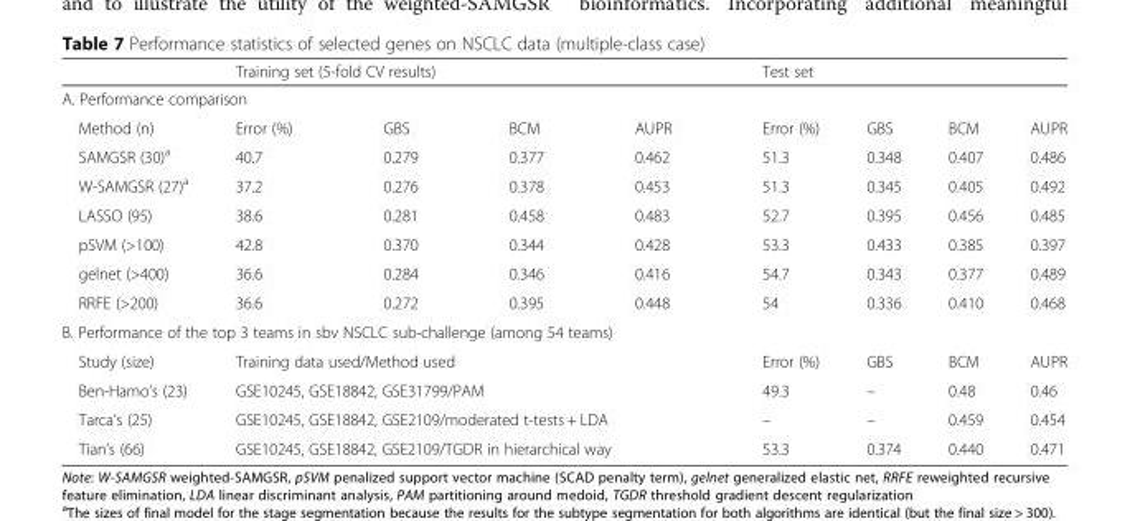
<table><thead><tr><td></td><td colspan="4">Training set (5-fold CV results)</td><td colspan="4">Test set</td></tr><tr><td colspan="9">A. Performance comparison</td></tr><tr><td>Method (n)</td><td>Error (%)</td><td>GBS</td><td>BCM</td><td>AUPR</td><td>Error (%)</td><td>GBS</td><td>BCM</td><td>AUPR</td></tr></thead><tbody><tr><td>SAMGSR (30)<sup>a</sup></td><td>40.7</td><td>0.279</td><td>0.377</td><td>0.462</td><td>51.3</td><td>0.348</td><td>0.407</td><td>0.486</td></tr><tr><td>W-SAMGSR (27)<sup>a</sup></td><td>37.2</td><td>0.276</td><td>0.378</td><td>0.453</td><td>51.3</td><td>0.345</td><td>0.405</td><td>0.492</td></tr><tr><td>LASSO (95)</td><td>38.6</td><td>0.281</td><td>0.458</td><td>0.483</td><td>52.7</td><td>0.395</td><td>0.456</td><td>0.485</td></tr><tr><td>pSVM (&gt;100)</td><td>42.8</td><td>0.370</td><td>0.344</td><td>0.428</td><td>53.3</td><td>0.433</td><td>0.385</td><td>0.397</td></tr><tr><td>gelnet (&gt;400)</td><td>36.6</td><td>0.284</td><td>0.346</td><td>0.416</td><td>54.7</td><td>0.343</td><td>0.377</td><td>0.489</td></tr><tr><td>RRFE (&gt;200)</td><td>36.6</td><td>0.272</td><td>0.395</td><td>0.448</td><td>54</td><td>0.336</td><td>0.410</td><td>0.468</td></tr><tr><td colspan="9">B. Performance of the top 3 teams in sbv NSCLC sub-challenge (among 54 teams)</td></tr><tr><td>Study (size)</td><td colspan="4">Training data used/Method used</td><td>Error (%)</td><td>GBS</td><td>BCM</td><td>AUPR</td></tr><tr><td>Ben-Hamo’s (23)</td><td colspan="4">GSE10245, GSE18842, GSE31799/PAM</td><td>49.3</td><td>–</td><td>0.48</td><td>0.46</td></tr><tr><td>Tarca’s (25)</td><td colspan="4">GSE10245, GSE18842, GSE2109/moderated t-tests + LDA</td><td>–</td><td>–</td><td>0.459</td><td>0.454</td></tr><tr><td>Tian’s (66)</td><td colspan="4">GSE10245, GSE18842, GSE2109/TGDR in hierarchical way</td><td>53.3</td><td>0.374</td><td>0.440</td><td>0.471</td></tr></tbody></table>